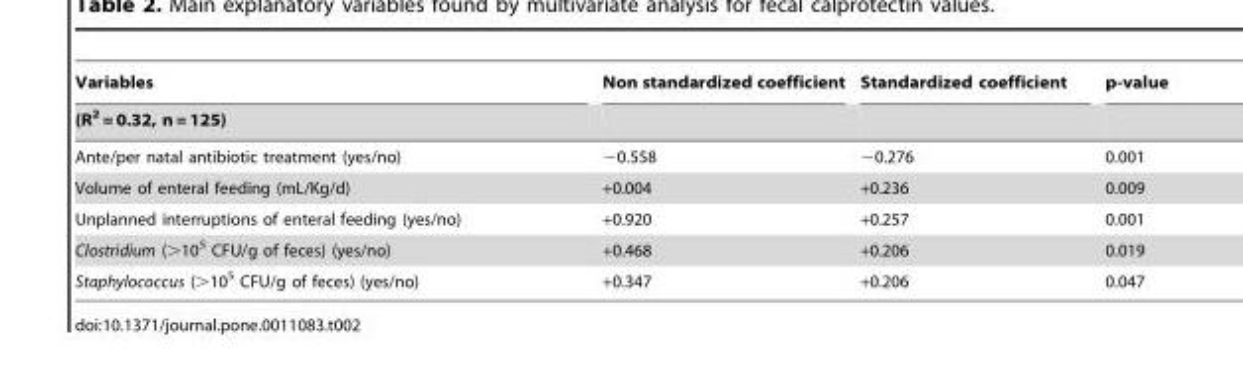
<table><thead><tr><td rowspan="2">Variables (R<sup>2</sup> = 0.32, n = 125)</td><td rowspan="2">Non standardized coefficient</td><td rowspan="2">Standardized coefficient</td><td rowspan="2">p-value</td></tr><tr></tr></thead><tbody><tr><td>Ante/per natal antibiotic treatment (yes/no)</td><td>−0.558</td><td>−0.276</td><td>0.001</td></tr><tr><td>Volume of enteral feeding (mL/Kg/d)</td><td>+0.004</td><td>+0.236</td><td>0.009</td></tr><tr><td>Unplanned interruptions of enteral feeding (yes/no)</td><td>+0.920</td><td>+0.257</td><td>0.001</td></tr><tr><td>Clostridium (&gt;10<sup>5</sup> CFU/g of feces) (yes/no)</td><td>+0.468</td><td>+0.206</td><td>0.019</td></tr><tr><td>Staphylococcus (&gt;10<sup>5</sup> CFU/g of feces) (yes/no)</td><td>+0.347</td><td>+0.206</td><td>0.047</td></tr></tbody></table>